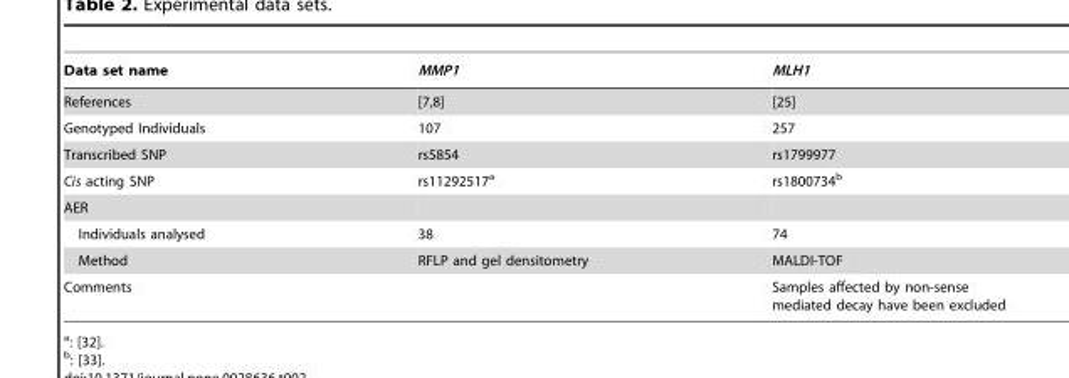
<table><thead><tr><td>Data set name</td><td>MMP1</td><td>MLH1</td></tr></thead><tbody><tr><td>References</td><td>[7,8]</td><td>[25]</td></tr><tr><td>Genotyped Individuals</td><td>107</td><td>257</td></tr><tr><td>Transcribed SNP</td><td>rs5854</td><td>rs1799977</td></tr><tr><td>Cis acting SNP</td><td>rs11292517<sup>a</sup></td><td>rs1800734<sup>b</sup></td></tr><tr><td colspan="3">AER</td></tr><tr><td>Individuals analysed</td><td>38</td><td>74</td></tr><tr><td>Method</td><td>RFLP and gel densitometry</td><td>MALDI-TOF</td></tr><tr><td>Comments</td><td></td><td>Samples affected by non-sense mediated decay have been excluded</td></tr></tbody></table>